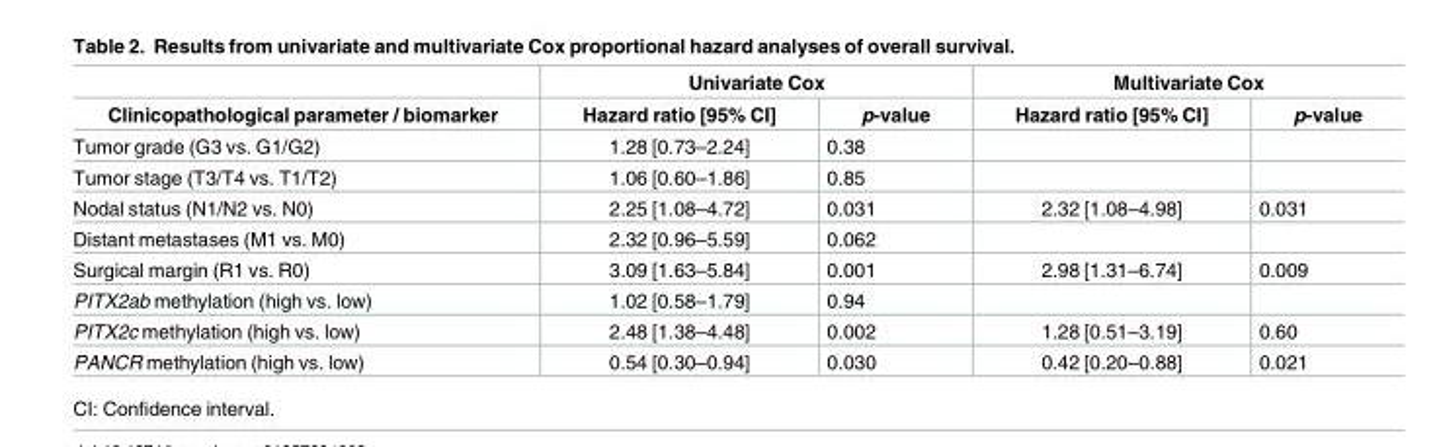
<table><thead><tr><td rowspan="2">Clinicopathological parameter / biomarker</td><td colspan="2">Univariate Cox</td><td colspan="2">Multivariate Cox</td></tr><tr><td>Hazard ratio [95% CI]</td><td>p-value</td><td>Hazard ratio [95% CI]</td><td>p-value</td></tr></thead><tbody><tr><td>Tumor grade (G3 vs. G1/G2)</td><td>1.28 [0.73–2.24]</td><td>0.38</td><td></td><td></td></tr><tr><td>Tumor stage (T3/T4 vs. T1/T2)</td><td>1.06 [0.60–1.86]</td><td>0.85</td><td></td><td></td></tr><tr><td>Nodal status (N1/N2 vs. N0)</td><td>2.25 [1.08–4.72]</td><td>0.031</td><td>2.32 [1.08–4.98]</td><td>0.031</td></tr><tr><td>Distant metastases (M1 vs. M0)</td><td>2.32 [0.96–5.59]</td><td>0.062</td><td></td><td></td></tr><tr><td>Surgical margin (R1 vs. R0)</td><td>3.09 [1.63–5.84]</td><td>0.001</td><td>2.98 [1.31–6.74]</td><td>0.009</td></tr><tr><td>PITX2ab methylation (high vs. low)</td><td>1.02 [0.58–1.79]</td><td>0.94</td><td></td><td></td></tr><tr><td>PITX2c methylation (high vs. low)</td><td>2.48 [1.38–4.48]</td><td>0.002</td><td>1.28 [0.51–3.19]</td><td>0.60</td></tr><tr><td>PANCR methylation (high vs. low)</td><td>0.54 [0.30–0.94]</td><td>0.030</td><td>0.42 [0.20–0.88]</td><td>0.021</td></tr></tbody></table>